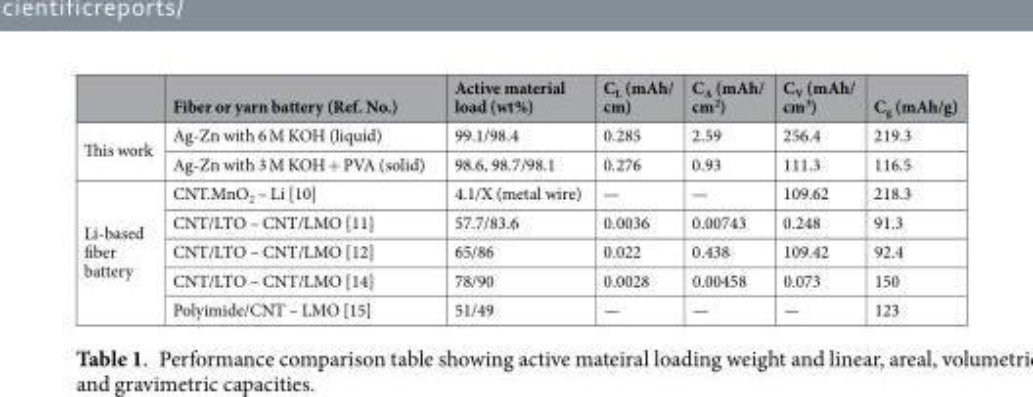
<table><thead><tr><td></td><td>Fiber or yarn battery (Ref. No.)</td><td>Active material load (wt%)</td><td>C<sub>L</sub> (mAh/ cm)</td><td>C<sub>A</sub> (mAh/ cm<sup>2</sup>)</td><td>C<sub>V</sub> (mAh/ cm<sup>3</sup>)</td><td>C<sub>g</sub> (mAh/g)</td></tr></thead><tbody><tr><td rowspan="2">This work</td><td>Ag-Zn with 6 M KOH (liquid)</td><td>99.1/98.4</td><td>0.285</td><td>2.59</td><td>256.4</td><td>219.3</td></tr><tr><td>Ag-Zn with 3 M KOH + PVA (solid)</td><td>98.6, 98.7/98.1</td><td>0.276</td><td>0.93</td><td>111.3</td><td>116.5</td></tr><tr><td rowspan="5">Li-based fiber battery</td><td>CNT.MnO<sub>2</sub> – Li [10]</td><td>4.1/X (metal wire)</td><td>—</td><td>—</td><td>109.62</td><td>218.3</td></tr><tr><td>CNT/LTO – CNT/LMO [11]</td><td>57.7/83.6</td><td>0.0036</td><td>0.00743</td><td>0.248</td><td>91.3</td></tr><tr><td>CNT/LTO – CNT/LMO [12]</td><td>65/86</td><td>0.022</td><td>0.438</td><td>109.42</td><td>92.4</td></tr><tr><td>CNT/LTO – CNT/LMO [14]</td><td>78/90</td><td>0.0028</td><td>0.00458</td><td>0.073</td><td>150</td></tr><tr><td>Polyimide/CNT – LMO [15]</td><td>51/49</td><td>—</td><td>—</td><td>—</td><td>123</td></tr></tbody></table>